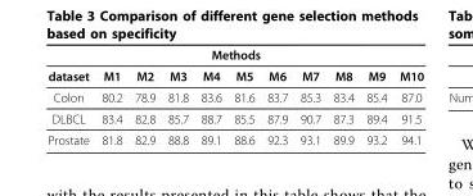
<table><thead><tr><td colspan="11">Methods</td></tr><tr><td>dataset</td><td>M1</td><td>M2</td><td>M3</td><td>M4</td><td>M5</td><td>M6</td><td>M7</td><td>M8</td><td>M9</td><td>M10</td></tr></thead><tbody><tr><td>Colon</td><td>80.2</td><td>78.9</td><td>81.8</td><td>83.6</td><td>81.6</td><td>83.7</td><td>85.3</td><td>83.4</td><td>85.4</td><td>87.0</td></tr><tr><td>DLBCL</td><td>83.4</td><td>82.8</td><td>85.7</td><td>88.7</td><td>85.5</td><td>87.9</td><td>90.7</td><td>87.3</td><td>89.4</td><td>91.5</td></tr><tr><td>Prostate</td><td>81.8</td><td>82.9</td><td>88.8</td><td>89.1</td><td>88.6</td><td>92.3</td><td>93.1</td><td>89.9</td><td>93.2</td><td>94.1</td></tr></tbody></table>